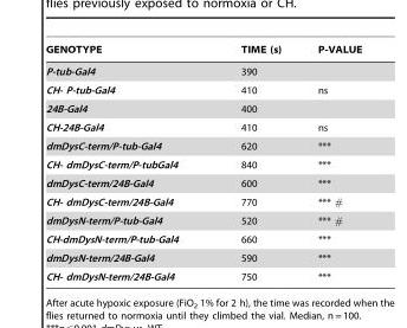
<table><thead><tr><td>GENOTYPE</td><td>TIME (s)</td><td>P-VALUE</td></tr></thead><tbody><tr><td>P-tub-Gal4</td><td>390</td><td></td></tr><tr><td>CH- P-tub-Gal4</td><td>410</td><td>ns</td></tr><tr><td>24B-Gal4</td><td>400</td><td></td></tr><tr><td>CH-24B-Gal4</td><td>410</td><td>ns</td></tr><tr><td>dmDysC-term/P-tub-Gal4</td><td>620</td><td>***</td></tr><tr><td>CH- dmDysC-term/P-tubGal4</td><td>840</td><td>***</td></tr><tr><td>dmDysC-term/24B-Gal4</td><td>600</td><td>***</td></tr><tr><td>CH- dmDysC-term/24B-Gal4</td><td>770</td><td>*** #</td></tr><tr><td>dmDysN-term/P-tub-Gal4</td><td>520</td><td>*** #</td></tr><tr><td>CH-dmDysN-term/P-tub-Gal4</td><td>660</td><td>***</td></tr><tr><td>dmDysN-term/24B-Gal4</td><td>590</td><td>***</td></tr><tr><td>CH- dmDysN-term/24B-Gal4</td><td>750</td><td>***</td></tr></tbody></table>